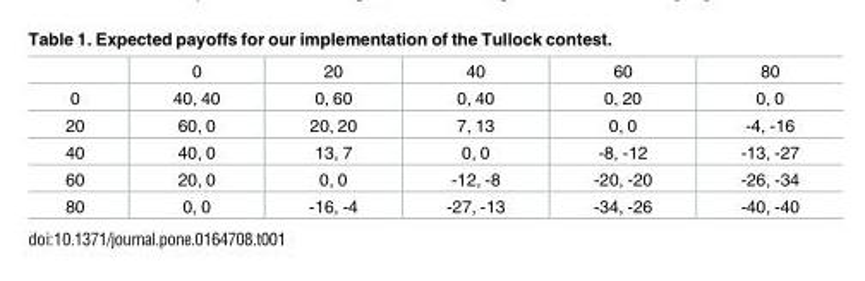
<table><thead><tr><td></td><td>0</td><td>20</td><td>40</td><td>60</td><td>80</td></tr></thead><tbody><tr><td>0</td><td>40, 40</td><td>0, 60</td><td>0, 40</td><td>0, 20</td><td>0, 0</td></tr><tr><td>20</td><td>60, 0</td><td>20, 20</td><td>7, 13</td><td>0, 0</td><td>-4, -16</td></tr><tr><td>40</td><td>40, 0</td><td>13, 7</td><td>0, 0</td><td>-8, -12</td><td>-13, -27</td></tr><tr><td>60</td><td>20, 0</td><td>0, 0</td><td>-12, -8</td><td>-20, -20</td><td>-26, -34</td></tr><tr><td>80</td><td>0, 0</td><td>-16, -4</td><td>-27, -13</td><td>-34, -26</td><td>-40, -40</td></tr></tbody></table>